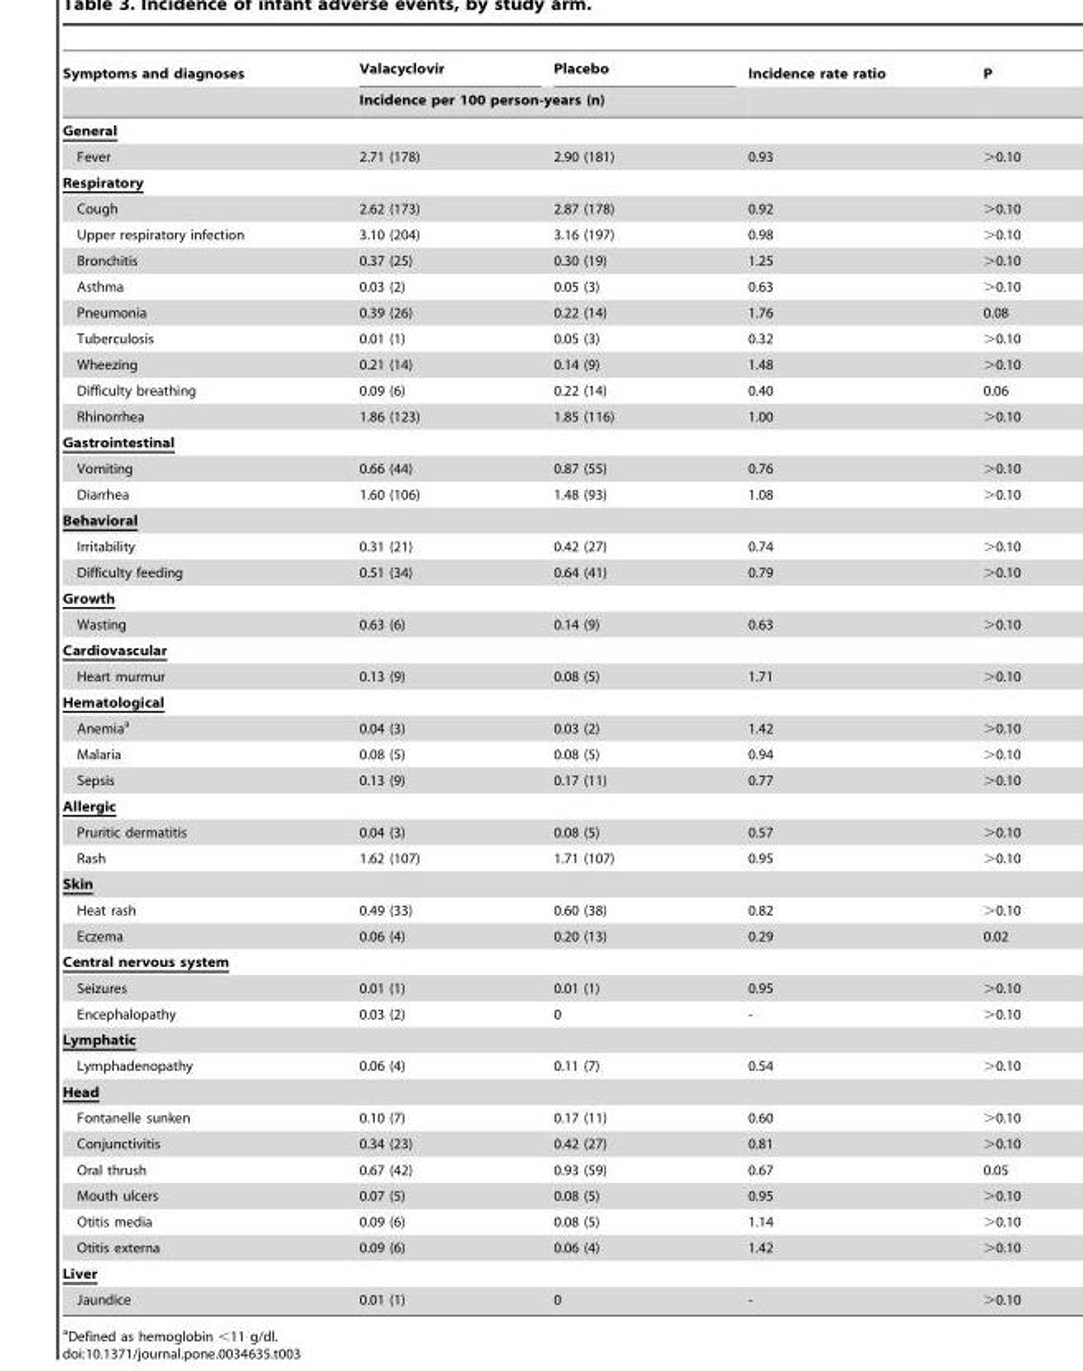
<table><thead><tr><td rowspan="2">Symptoms and diagnoses</td><td>Valacyclovir</td><td>Placebo</td><td rowspan="2">Incidence rate ratio</td><td rowspan="2">P</td></tr><tr><td colspan="2">Incidence per 100 person-years (n)</td></tr></thead><tbody><tr><td colspan="5">General</td></tr><tr><td>Fever</td><td>2.71 (178)</td><td>2.90 (181)</td><td>0.93</td><td>&gt;0.10</td></tr><tr><td colspan="5">Respiratory</td></tr><tr><td>Cough</td><td>2.62 (173)</td><td>2.87 (178)</td><td>0.92</td><td>&gt;0.10</td></tr><tr><td>Upper respiratory infection</td><td>3.10 (204)</td><td>3.16 (197)</td><td>0.98</td><td>&gt;0.10</td></tr><tr><td>Bronchitis</td><td>0.37 (25)</td><td>0.30 (19)</td><td>1.25</td><td>&gt;0.10</td></tr><tr><td>Asthma</td><td>0.03 (2)</td><td>0.05 (3)</td><td>0.63</td><td>&gt;0.10</td></tr><tr><td>Pneumonia</td><td>0.39 (26)</td><td>0.22 (14)</td><td>1.76</td><td>0.08</td></tr><tr><td>Tuberculosis</td><td>0.01 (1)</td><td>0.05 (3)</td><td>0.32</td><td>&gt;0.10</td></tr><tr><td>Wheezing</td><td>0.21 (14)</td><td>0.14 (9)</td><td>1.48</td><td>&gt;0.10</td></tr><tr><td>Difficulty breathing</td><td>0.09 (6)</td><td>0.22 (14)</td><td>0.40</td><td>0.06</td></tr><tr><td>Rhinorrhea</td><td>1.86 (123)</td><td>1.85 (116)</td><td>1.00</td><td>&gt;0.10</td></tr><tr><td colspan="5">Gastrointestinal</td></tr><tr><td>Vomiting</td><td>0.66 (44)</td><td>0.87 (55)</td><td>0.76</td><td>&gt;0.10</td></tr><tr><td>Diarrhea</td><td>1.60 (106)</td><td>1.48 (93)</td><td>1.08</td><td>&gt;0.10</td></tr><tr><td colspan="5">Behavioral</td></tr><tr><td>Irritability</td><td>0.31 (21)</td><td>0.42 (27)</td><td>0.74</td><td>&gt;0.10</td></tr><tr><td>Difficulty feeding</td><td>0.51 (34)</td><td>0.64 (41)</td><td>0.79</td><td>&gt;0.10</td></tr><tr><td colspan="5">Growth</td></tr><tr><td>Wasting</td><td>0.63 (6)</td><td>0.14 (9)</td><td>0.63</td><td>&gt;0.10</td></tr><tr><td colspan="5">Cardiovascular</td></tr><tr><td>Heart murmur</td><td>0.13 (9)</td><td>0.08 (5)</td><td>1.71</td><td>&gt;0.10</td></tr><tr><td colspan="5">Hematological</td></tr><tr><td>Anemia<sup>a</sup></td><td>0.04 (3)</td><td>0.03 (2)</td><td>1.42</td><td>&gt;0.10</td></tr><tr><td>Malaria</td><td>0.08 (5)</td><td>0.08 (5)</td><td>0.94</td><td>&gt;0.10</td></tr><tr><td>Sepsis</td><td>0.13 (9)</td><td>0.17 (11)</td><td>0.77</td><td>&gt;0.10</td></tr><tr><td colspan="5">Allergic</td></tr><tr><td>Pruritic dermatitis</td><td>0.04 (3)</td><td>0.08 (5)</td><td>0.57</td><td>&gt;0.10</td></tr><tr><td>Rash</td><td>1.62 (107)</td><td>1.71 (107)</td><td>0.95</td><td>&gt;0.10</td></tr><tr><td colspan="5">Skin</td></tr><tr><td>Heat rash</td><td>0.49 (33)</td><td>0.60 (38)</td><td>0.82</td><td>&gt;0.10</td></tr><tr><td>Eczema</td><td>0.06 (4)</td><td>0.20 (13)</td><td>0.29</td><td>0.02</td></tr><tr><td colspan="5">Central nervous system</td></tr><tr><td>Seizures</td><td>0.01 (1)</td><td>0.01 (1)</td><td>0.95</td><td>&gt;0.10</td></tr><tr><td>Encephalopathy</td><td>0.03 (2)</td><td>0</td><td>-</td><td>&gt;0.10</td></tr><tr><td colspan="5">Lymphatic</td></tr><tr><td>Lymphadenopathy</td><td>0.06 (4)</td><td>0.11 (7)</td><td>0.54</td><td>&gt;0.10</td></tr><tr><td colspan="5">Head</td></tr><tr><td>Fontanelle sunken</td><td>0.10 (7)</td><td>0.17 (11)</td><td>0.60</td><td>&gt;0.10</td></tr><tr><td>Conjunctivitis</td><td>0.34 (23)</td><td>0.42 (27)</td><td>0.81</td><td>&gt;0.10</td></tr><tr><td>Oral thrush</td><td>0.67 (42)</td><td>0.93 (59)</td><td>0.67</td><td>0.05</td></tr><tr><td>Mouth ulcers</td><td>0.07 (5)</td><td>0.08 (5)</td><td>0.95</td><td>&gt;0.10</td></tr><tr><td>Otitis media</td><td>0.09 (6)</td><td>0.08 (5)</td><td>1.14</td><td>&gt;0.10</td></tr><tr><td>Otitis externa</td><td>0.09 (6)</td><td>0.06 (4)</td><td>1.42</td><td>&gt;0.10</td></tr><tr><td colspan="5">Liver</td></tr><tr><td>Jaundice</td><td>0.01 (1)</td><td>0</td><td>-</td><td>&gt;0.10</td></tr></tbody></table>